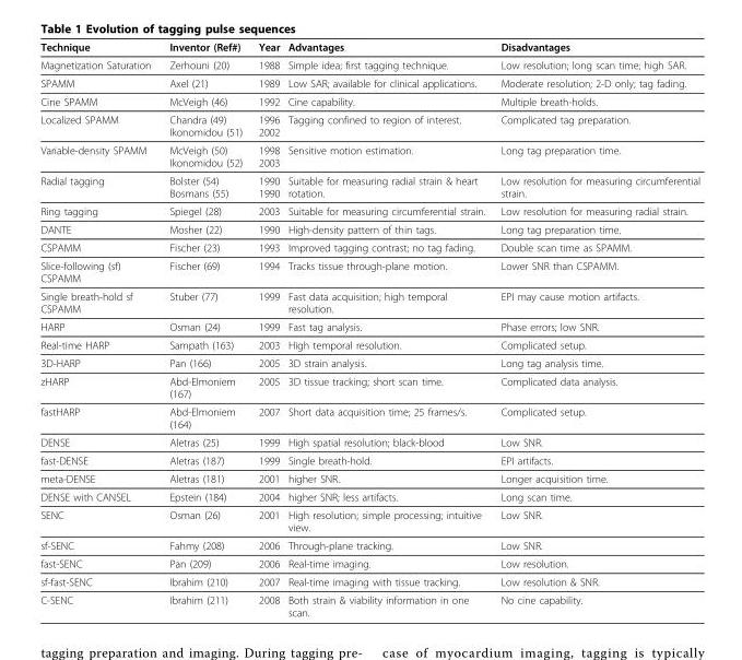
<table><thead><tr><td>Technique</td><td>Inventor (Ref#)</td><td>Year</td><td>Advantages</td><td>Disadvantages</td></tr></thead><tbody><tr><td>Magnetization Saturation</td><td>Zerhouni (20)</td><td>1988</td><td>Simple idea; first tagging technique.</td><td>Low resolution; long scan time; high SAR.</td></tr><tr><td>SPAMM</td><td>Axel (21)</td><td>1989</td><td>Low SAR; available for clinical applications.</td><td>Moderate resolution; 2-D only; tag fading.</td></tr><tr><td>Cine SPAMM</td><td>McVeigh (46)</td><td>1992</td><td>Cine capability.</td><td>Multiple breath-holds.</td></tr><tr><td>Localized SPAMM</td><td>Chandra (49) Ikonomidou (51)</td><td>1996 2002</td><td>Tagging confined to region of interest.</td><td>Complicated tag preparation.</td></tr><tr><td>Variable-density SPAMM</td><td>McVeigh (50) Ikonomidou (52)</td><td>1998 2003</td><td>Sensitive motion estimation.</td><td>Long tag preparation time.</td></tr><tr><td>Radial tagging</td><td>Bolster (54) Bosmans (55)</td><td>1990 1990</td><td>Suitable for measuring radial strain &amp; heart rotation.</td><td>Low resolution for measuring circumferential strain.</td></tr><tr><td>Ring tagging</td><td>Spiegel (28)</td><td>2003</td><td>Suitable for measuring circumferential strain.</td><td>Low resolution for measuring radial strain.</td></tr><tr><td>DANTE</td><td>Mosher (22)</td><td>1990</td><td>High-density pattern of thin tags.</td><td>Long tag preparation time.</td></tr><tr><td>CSPAMM</td><td>Fischer (23)</td><td>1993</td><td>Improved tagging contrast; no tag fading.</td><td>Double scan time as SPAMM.</td></tr><tr><td>Slice-following (sf) CSPAMM</td><td>Fischer (69)</td><td>1994</td><td>Tracks tissue through-plane motion.</td><td>Lower SNR than CSPAMM.</td></tr><tr><td>Single breath-hold sf CSPAMM</td><td>Stuber (77)</td><td>1999</td><td>Fast data acquisition; high temporal resolution.</td><td>EPI may cause motion artifacts.</td></tr><tr><td>HARP</td><td>Osman (24)</td><td>1999</td><td>Fast tag analysis.</td><td>Phase errors; low SNR.</td></tr><tr><td>Real-time HARP</td><td>Sampath (163)</td><td>2003</td><td>High temporal resolution.</td><td>Complicated setup.</td></tr><tr><td>3D-HARP</td><td>Pan (166)</td><td>2005</td><td>3D strain analysis.</td><td>Long tag analysis time.</td></tr><tr><td>zHARP</td><td>Abd-Elmoniem (167)</td><td>2005</td><td>3D tissue tracking; short scan time.</td><td>Complicated data analysis.</td></tr><tr><td>fastHARP</td><td>Abd-Elmoniem (164)</td><td>2007</td><td>Short data acquisition time; 25 frames/s.</td><td>Complicated setup.</td></tr><tr><td>DENSE</td><td>Aletras (25)</td><td>1999</td><td>High spatial resolution; black-blood</td><td>Low SNR.</td></tr><tr><td>fast-DENSE</td><td>Aletras (187)</td><td>1999</td><td>Single breath-hold.</td><td>EPI artifacts.</td></tr><tr><td>meta-DENSE</td><td>Aletras (181)</td><td>2001</td><td>higher SNR.</td><td>Longer acquisition time.</td></tr><tr><td>DENSE with CANSEL</td><td>Epstein (184)</td><td>2004</td><td>higher SNR; less artifacts.</td><td>Long scan time.</td></tr><tr><td>SENC</td><td>Osman (26)</td><td>2001</td><td>High resolution; simple processing; intuitive view.</td><td>Low SNR.</td></tr><tr><td>sf-SENC</td><td>Fahmy (208)</td><td>2006</td><td>Through-plane tracking.</td><td>Low SNR.</td></tr><tr><td>fast-SENC</td><td>Pan (209)</td><td>2006</td><td>Real-time imaging.</td><td>Low resolution.</td></tr><tr><td>sf-fast-SENC</td><td>Ibrahim (210)</td><td>2007</td><td>Real-time imaging with tissue tracking.</td><td>Low resolution &amp; SNR.</td></tr><tr><td>C-SENC</td><td>Ibrahim (211)</td><td>2008</td><td>Both strain &amp; viability information in one scan.</td><td>No cine capability.</td></tr></tbody></table>